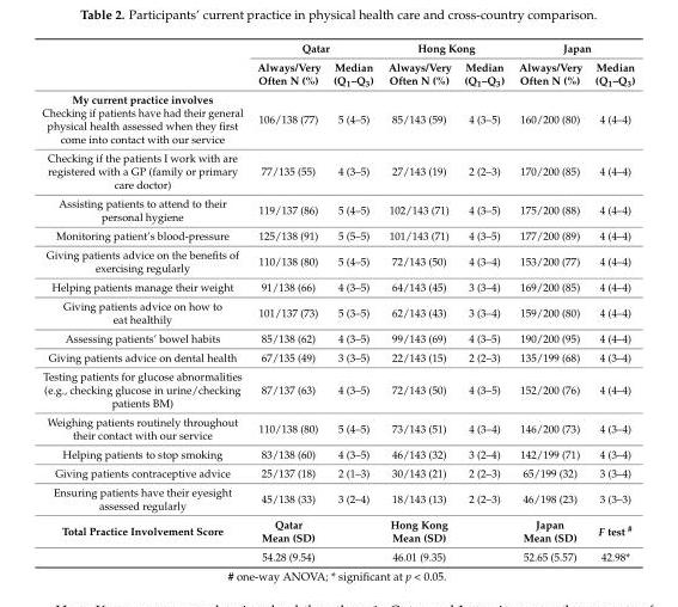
<table><thead><tr><td rowspan="2"></td><td colspan="2">Qatar</td><td colspan="2">Hong Kong</td><td colspan="2">Japan</td></tr><tr><td>Always/Very Often N (%)</td><td>Median (Q<sub>1</sub>–Q<sub>3</sub>)</td><td>Always/Very Often N (%)</td><td>Median (Q<sub>1</sub>–Q<sub>3</sub>)</td><td>Always/Very Often N (%)</td><td>Median (Q<sub>1</sub>–Q<sub>3</sub>)</td></tr></thead><tbody><tr><td>My current practice involves Checking if patients have had their general physical health assessed when they first come into contact with our service</td><td>106/138 (77)</td><td>5 (4–5)</td><td>85/143 (59)</td><td>4 (3–5)</td><td>160/200 (80)</td><td>4 (4–4)</td></tr><tr><td>Checking if the patients I work with are registered with a GP (family or primary care doctor)</td><td>77/135 (55)</td><td>4 (3–5)</td><td>27/143 (19)</td><td>2 (2–3)</td><td>170/200 (85)</td><td>4 (4–4)</td></tr><tr><td>Assisting patients to attend to their personal hygiene</td><td>119/137 (86)</td><td>5 (4–5)</td><td>102/143 (71)</td><td>4 (3–5)</td><td>175/200 (88)</td><td>4 (4–4)</td></tr><tr><td>Monitoring patient’s blood-pressure</td><td>125/138 (91)</td><td>5 (5–5)</td><td>101/143 (71)</td><td>4 (3–5)</td><td>177/200 (89)</td><td>4 (4–4)</td></tr><tr><td>Giving patients advice on the benefits of exercising regularly</td><td>110/138 (80)</td><td>5 (4–5)</td><td>72/143 (50)</td><td>4 (3–4)</td><td>153/200 (77)</td><td>4 (4–4)</td></tr><tr><td>Helping patients manage their weight</td><td>91/138 (66)</td><td>4 (3–5)</td><td>64/143 (45)</td><td>3 (3–4)</td><td>169/200 (85)</td><td>4 (4–4)</td></tr><tr><td>Giving patients advice on how to eat healthily</td><td>101/137 (73)</td><td>5 (3–5)</td><td>62/143 (43)</td><td>3 (3–4)</td><td>159/200 (80)</td><td>4 (4–4)</td></tr><tr><td>Assessing patients’ bowel habits</td><td>85/138 (62)</td><td>4 (3–5)</td><td>99/143 (69)</td><td>4 (3–5)</td><td>190/200 (95)</td><td>4 (4–4)</td></tr><tr><td>Giving patients advice on dental health</td><td>67/135 (49)</td><td>3 (3–5)</td><td>22/143 (15)</td><td>2 (2–3)</td><td>135/199 (68)</td><td>4 (3–4)</td></tr><tr><td>Testing patients for glucose abnormalities (e.g., checking glucose in urine/checking patients BM)</td><td>87/137 (63)</td><td>4 (3–5)</td><td>72/143 (50)</td><td>4 (3–5)</td><td>152/200 (76)</td><td>4 (4–4)</td></tr><tr><td>Weighing patients routinely throughout their contact with our service</td><td>110/138 (80)</td><td>5 (4–5)</td><td>73/143 (51)</td><td>4 (3–4)</td><td>146/200 (73)</td><td>4 (3–4)</td></tr><tr><td>Helping patients to stop smoking</td><td>83/138 (60)</td><td>4 (3–5)</td><td>46/143 (32)</td><td>3 (2–4)</td><td>142/199 (71)</td><td>4 (3–4)</td></tr><tr><td>Giving patients contraceptive advice</td><td>25/137 (18)</td><td>2 (1–3)</td><td>30/143 (21)</td><td>2 (2–3)</td><td>65/199 (32)</td><td>3 (3–4)</td></tr><tr><td>Ensuring patients have their eyesight assessed regularly</td><td>45/138 (33)</td><td>3 (2–4)</td><td>18/143 (13)</td><td>2 (2–3)</td><td>46/198 (23)</td><td>3 (3–3)</td></tr><tr><td rowspan="2">Total Practice Involvement Score</td><td>Qatar Mean (SD)</td><td></td><td>Hong Kong Mean (SD)</td><td></td><td>Japan Mean (SD)</td><td>F test <sup>#</sup></td></tr><tr><td>54.28 (9.54)</td><td></td><td>46.01 (9.35)</td><td></td><td>52.65 (5.57)</td><td>42.98*</td></tr></tbody></table>